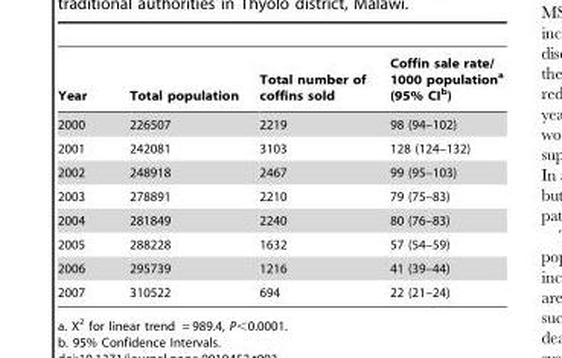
<table><thead><tr><td>Year</td><td>Total population</td><td>Total number of coffins sold</td><td>Coffin sale rate/ 1000 population<sup>a</sup> (95% CI<sup>b</sup>)</td></tr></thead><tbody><tr><td>2000</td><td>226507</td><td>2219</td><td>98 (94–102)</td></tr><tr><td>2001</td><td>242081</td><td>3103</td><td>128 (124–132)</td></tr><tr><td>2002</td><td>248918</td><td>2467</td><td>99 (95–103)</td></tr><tr><td>2003</td><td>278891</td><td>2210</td><td>79 (75–83)</td></tr><tr><td>2004</td><td>281849</td><td>2240</td><td>80 (76–83)</td></tr><tr><td>2005</td><td>288228</td><td>1632</td><td>57 (54–59)</td></tr><tr><td>2006</td><td>295739</td><td>1216</td><td>41 (39–44)</td></tr><tr><td>2007</td><td>310522</td><td>694</td><td>22 (21–24)</td></tr></tbody></table>